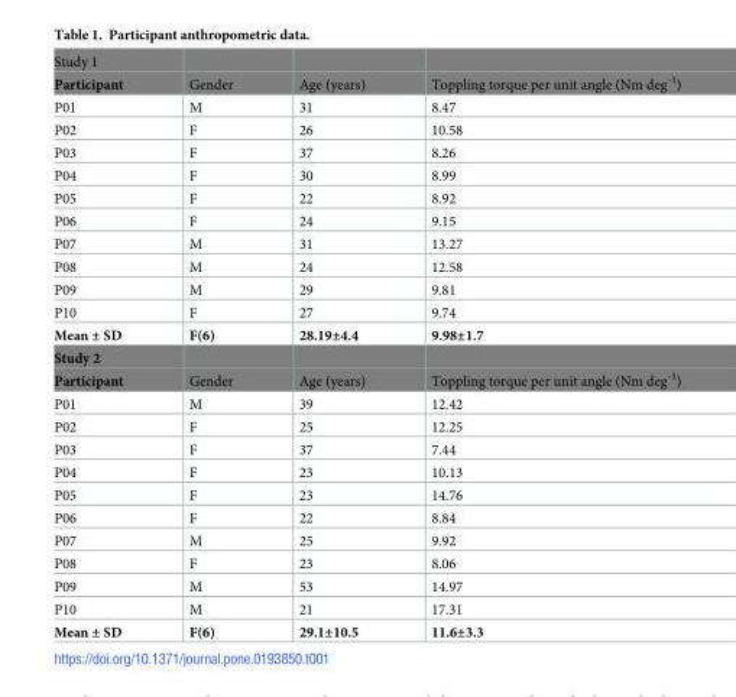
<table><tbody><tr><td colspan="4">Study 1</td></tr><tr><td>Participant</td><td>Gender</td><td>Age (years)</td><td>Toppling torque per unit angle (Nm deg<sup>-1</sup>)</td></tr><tr><td>P01</td><td>M</td><td>31</td><td>8.47</td></tr><tr><td>P02</td><td>F</td><td>26</td><td>10.58</td></tr><tr><td>P03</td><td>F</td><td>37</td><td>8.26</td></tr><tr><td>P04</td><td>F</td><td>30</td><td>8.99</td></tr><tr><td>P05</td><td>F</td><td>22</td><td>8.92</td></tr><tr><td>P06</td><td>F</td><td>24</td><td>9.15</td></tr><tr><td>P07</td><td>M</td><td>31</td><td>13.27</td></tr><tr><td>P08</td><td>M</td><td>24</td><td>12.58</td></tr><tr><td>P09</td><td>M</td><td>29</td><td>9.81</td></tr><tr><td>P10</td><td>F</td><td>27</td><td>9.74</td></tr><tr><td>Mean ± SD</td><td>F(6)</td><td>28.19±4.4</td><td>9.98±1.7</td></tr><tr><td colspan="4">Study 2</td></tr><tr><td>Participant</td><td>Gender</td><td>Age (years)</td><td>Toppling torque per unit angle (Nm deg<sup>-1</sup>)</td></tr><tr><td>P01</td><td>M</td><td>39</td><td>12.42</td></tr><tr><td>P02</td><td>F</td><td>25</td><td>12.25</td></tr><tr><td>P03</td><td>F</td><td>37</td><td>7.44</td></tr><tr><td>P04</td><td>F</td><td>23</td><td>10.13</td></tr><tr><td>P05</td><td>F</td><td>23</td><td>14.76</td></tr><tr><td>P06</td><td>F</td><td>22</td><td>8.84</td></tr><tr><td>P07</td><td>M</td><td>25</td><td>9.92</td></tr><tr><td>P08</td><td>F</td><td>23</td><td>8.06</td></tr><tr><td>P09</td><td>M</td><td>53</td><td>14.97</td></tr><tr><td>P10</td><td>M</td><td>21</td><td>17.31</td></tr><tr><td>Mean ± SD</td><td>F(6)</td><td>29.1±10.5</td><td>11.6±3.3</td></tr></tbody></table>